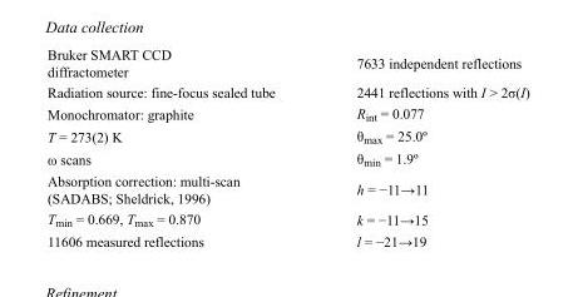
<table><tbody><tr><td>Bruker SMART CCD diffractometer</td><td>7633 independent reflections</td></tr><tr><td>Radiation source: fine-focus sealed tube</td><td>2441 reflections with I &gt; 2σ(I)</td></tr><tr><td>Monochromator: graphite</td><td>R<sub>int</sub> = 0.077</td></tr><tr><td>T = 273(2) K</td><td>θ<sub>max</sub> = 25.0º</td></tr><tr><td>ω scans</td><td>θ<sub>min</sub> = 1.9º</td></tr><tr><td>Absorption correction: multi-scan (SADABS; Sheldrick, 1996)</td><td>h = −11→11</td></tr><tr><td>T<sub>min</sub> = 0.669, T<sub>max</sub> = 0.870</td><td>k = −11→15</td></tr><tr><td>11606 measured reflections</td><td>l = −21→19</td></tr></tbody></table>